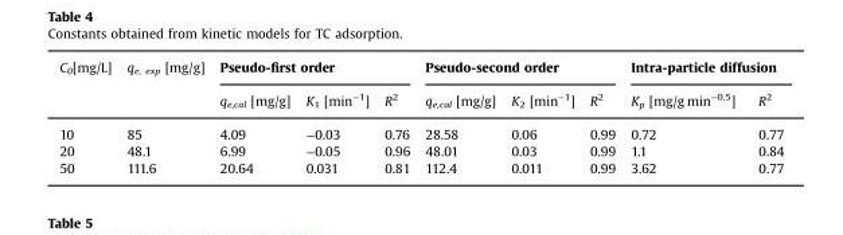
<table><thead><tr><td rowspan="2">C<sub>0</sub>[mg/L]</td><td rowspan="2">q<sub>e, exp</sub> [mg/g]</td><td colspan="3">Pseudo-first order</td><td colspan="3">Pseudo-second order</td><td colspan="2">Intra-particle diffusion</td></tr><tr><td>q<sub>e,cal</sub> [mg/g]</td><td>K<sub>1</sub> [min<sup>−1</sup>]</td><td>R<sup>2</sup></td><td>q<sub>e,cal</sub> [mg/g]</td><td>K<sub>2</sub> [min<sup>−1</sup>]</td><td>R<sup>2</sup></td><td>K<sub>p</sub> [mg/g min<sup>−0.5</sup>]</td><td>R<sup>2</sup></td></tr></thead><tbody><tr><td>10</td><td>85</td><td>4.09</td><td>−0.03</td><td>0.76</td><td>28.58</td><td>0.06</td><td>0.99</td><td>0.72</td><td>0.77</td></tr><tr><td>20</td><td>48.1</td><td>6.99</td><td>−0.05</td><td>0.96</td><td>48.01</td><td>0.03</td><td>0.99</td><td>1.1</td><td>0.84</td></tr><tr><td>50</td><td>111.6</td><td>20.64</td><td>0.031</td><td>0.81</td><td>112.4</td><td>0.011</td><td>0.99</td><td>3.62</td><td>0.77</td></tr></tbody></table>